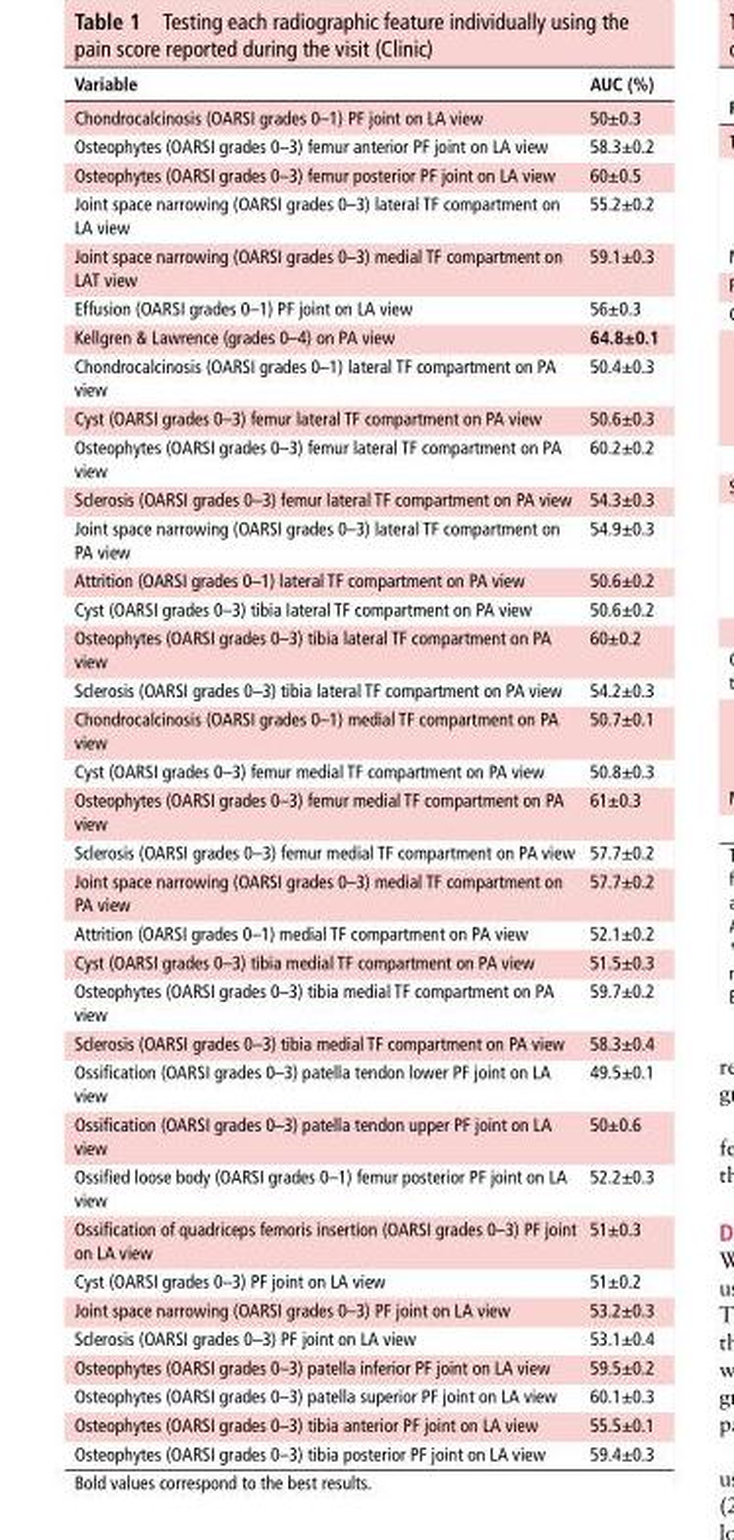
<table><thead><tr><td>Variable</td><td>AuC (%)</td></tr></thead><tbody><tr><td>Chondrocalcinosis (OARSI grades 0–1) PF joint on LA view</td><td>50±0.3</td></tr><tr><td>Osteophytes (OARSI grades 0–3) femur anterior PF joint on LA view</td><td>58.3±0.2</td></tr><tr><td>Osteophytes (OARSI grades 0–3) femur posterior PF joint on LA view</td><td>60±0.5</td></tr><tr><td>Joint space narrowing (OARSI grades 0–3) lateral TF compartment on LA view</td><td>55.2±0.2</td></tr><tr><td>Joint space narrowing (OARSI grades 0–3) medial TF compartment on LAT view</td><td>59.1±0.3</td></tr><tr><td>Effusion (OARSI grades 0–1) PF joint on LA view</td><td>56±0.3</td></tr><tr><td>Kellgren &amp; Lawrence (grades 0–4) on PA view</td><td>64.8±0.1</td></tr><tr><td>Chondrocalcinosis (OARSI grades 0–1) lateral TF compartment on PA view</td><td>50.4±0.3</td></tr><tr><td>Cyst (OARSI grades 0–3) femur lateral TF compartment on PA view</td><td>50.6±0.3</td></tr><tr><td>Osteophytes (OARSI grades 0–3) femur lateral TF compartment on PA view</td><td>60.2±0.2</td></tr><tr><td>Sclerosis (OARSI grades 0–3) femur lateral TF compartment on PA view</td><td>54.3±0.3</td></tr><tr><td>Joint space narrowing (OARSI grades 0–3) lateral TF compartment on PA view</td><td>54.9±0.3</td></tr><tr><td>Attrition (OARSI grades 0–1) lateral TF compartment on PA view</td><td>50.6±0.2</td></tr><tr><td>Cyst (OARSI grades 0–3) tibia lateral TF compartment on PA view</td><td>50.6±0.2</td></tr><tr><td>Osteophytes (OARSI grades 0–3) tibia lateral TF compartment on PA view</td><td>60±0.2</td></tr><tr><td>Sclerosis (OARSI grades 0–3) tibia lateral TF compartment on PA view</td><td>54.2±0.3</td></tr><tr><td>Chondrocalcinosis (OARSI grades 0–1) medial TF compartment on PA view</td><td>50.7±0.1</td></tr><tr><td>Cyst (OARSI grades 0–3) femur medial TF compartment on PA view</td><td>50.8±0.3</td></tr><tr><td>Osteophytes (OARSI grades 0–3) femur medial TF compartment on PA view</td><td>61±0.3</td></tr><tr><td>Sclerosis (OARSI grades 0–3) femur medial TF compartment on PA view</td><td>57.7±0.2</td></tr><tr><td>Joint space narrowing (OARSI grades 0–3) medial TF compartment on PA view</td><td>57.7±0.2</td></tr><tr><td>Attrition (OARSI grades 0–1) medial TF compartment on PA view</td><td>52.1±0.2</td></tr><tr><td>Cyst (OARSI grades 0–3) tibia medial TF compartment on PA view</td><td>51.5±0.3</td></tr><tr><td>Osteophytes (OARSI grades 0–3) tibia medial TF compartment on PA view</td><td>59.7±0.2</td></tr><tr><td>Sclerosis (OARSI grades 0–3) tibia medial TF compartment on PA view</td><td>58.3±0.4</td></tr><tr><td>Ossification (OARSI grades 0–3) patella tendon lower PF joint on LA view</td><td>49.5±0.1</td></tr><tr><td>Ossification (OARSI grades 0–3) patella tendon upper PF joint on LA view</td><td>50±0.6</td></tr><tr><td>Ossified loose body (OARSI grades 0–1) femur posterior PF joint on LA view</td><td>52.2±0.3</td></tr><tr><td>Ossification of quadriceps femoris insertion (OARSI grades 0–3) PF joint on LA view</td><td>51±0.3</td></tr><tr><td>Cyst (OARSI grades 0–3) PF joint on LA view</td><td>51±0.2</td></tr><tr><td>Joint space narrowing (OARSI grades 0–3) PF joint on LA view</td><td>53.2±0.3</td></tr><tr><td>Sclerosis (OARSI grades 0–3) PF joint on LA view</td><td>53.1±0.4</td></tr><tr><td>Osteophytes (OARSI grades 0–3) patella inferior PF joint on LA view</td><td>59.5±0.2</td></tr><tr><td>Osteophytes (OARSI grades 0–3) patella superior PF joint on LA view</td><td>60.1±0.3</td></tr><tr><td>Osteophytes (OARSI grades 0–3) tibia anterior PF joint on LA view</td><td>55.5±0.1</td></tr><tr><td>Osteophytes (OARSI grades 0–3) tibia posterior PF joint on LA view</td><td>59.4±0.3</td></tr></tbody></table>